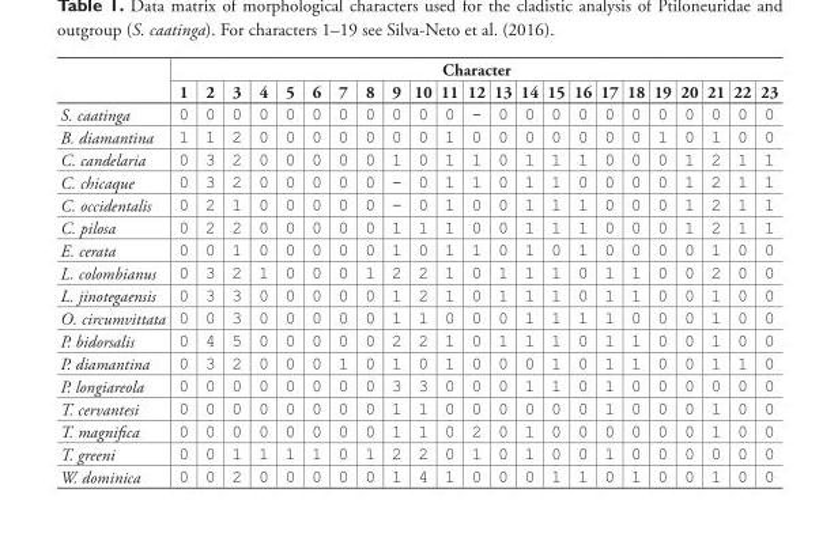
<table><thead><tr><td rowspan="2"></td><td colspan="23">Character</td></tr><tr><td>1</td><td>2</td><td>3</td><td>4</td><td>5</td><td>6</td><td>7</td><td>8</td><td>9</td><td>10</td><td>11</td><td>12</td><td>13</td><td>14</td><td>15</td><td>16</td><td>17</td><td>18</td><td>19</td><td>20</td><td>21</td><td>22</td><td>23</td></tr></thead><tbody><tr><td>S. caatinga</td><td>0</td><td>0</td><td>0</td><td>0</td><td>0</td><td>0</td><td>0</td><td>0</td><td>0</td><td>0</td><td>0</td><td>-</td><td>0</td><td>0</td><td>0</td><td>0</td><td>0</td><td>0</td><td>0</td><td>0</td><td>0</td><td>0</td><td>0</td></tr><tr><td>B. diamantina</td><td>1</td><td>1</td><td>2</td><td>0</td><td>0</td><td>0</td><td>0</td><td>0</td><td>0</td><td>0</td><td>1</td><td>0</td><td>0</td><td>0</td><td>0</td><td>0</td><td>0</td><td>0</td><td>1</td><td>0</td><td>1</td><td>0</td><td>0</td></tr><tr><td>C. candelaria</td><td>0</td><td>3</td><td>2</td><td>0</td><td>0</td><td>0</td><td>0</td><td>0</td><td>1</td><td>0</td><td>1</td><td>1</td><td>0</td><td>1</td><td>1</td><td>1</td><td>0</td><td>0</td><td>0</td><td>1</td><td>2</td><td>1</td><td>1</td></tr><tr><td>C. chicaque</td><td>0</td><td>3</td><td>2</td><td>0</td><td>0</td><td>0</td><td>0</td><td>0</td><td>-</td><td>0</td><td>1</td><td>1</td><td>0</td><td>1</td><td>1</td><td>0</td><td>0</td><td>0</td><td>0</td><td>1</td><td>2</td><td>1</td><td>1</td></tr><tr><td>C. occidentalis</td><td>0</td><td>2</td><td>1</td><td>0</td><td>0</td><td>0</td><td>0</td><td>0</td><td>-</td><td>0</td><td>1</td><td>0</td><td>0</td><td>1</td><td>1</td><td>1</td><td>0</td><td>0</td><td>0</td><td>1</td><td>2</td><td>1</td><td>1</td></tr><tr><td>C. pilosa</td><td>0</td><td>2</td><td>2</td><td>0</td><td>0</td><td>0</td><td>0</td><td>0</td><td>1</td><td>1</td><td>1</td><td>0</td><td>0</td><td>1</td><td>1</td><td>1</td><td>0</td><td>0</td><td>0</td><td>1</td><td>2</td><td>1</td><td>1</td></tr><tr><td>E. cerata</td><td>0</td><td>0</td><td>1</td><td>0</td><td>0</td><td>0</td><td>0</td><td>0</td><td>1</td><td>0</td><td>1</td><td>1</td><td>0</td><td>1</td><td>0</td><td>1</td><td>0</td><td>0</td><td>0</td><td>0</td><td>1</td><td>0</td><td>0</td></tr><tr><td>L. colombianus</td><td>0</td><td>3</td><td>2</td><td>1</td><td>0</td><td>0</td><td>0</td><td>1</td><td>2</td><td>2</td><td>1</td><td>0</td><td>1</td><td>1</td><td>1</td><td>0</td><td>1</td><td>1</td><td>0</td><td>0</td><td>2</td><td>0</td><td>0</td></tr><tr><td>L. jinotegaensis</td><td>0</td><td>3</td><td>3</td><td>0</td><td>0</td><td>0</td><td>0</td><td>0</td><td>1</td><td>2</td><td>1</td><td>0</td><td>1</td><td>1</td><td>1</td><td>0</td><td>1</td><td>1</td><td>0</td><td>0</td><td>1</td><td>0</td><td>0</td></tr><tr><td>O. circumvittata</td><td>0</td><td>0</td><td>3</td><td>0</td><td>0</td><td>0</td><td>0</td><td>0</td><td>1</td><td>1</td><td>0</td><td>0</td><td>0</td><td>1</td><td>1</td><td>1</td><td>1</td><td>0</td><td>0</td><td>0</td><td>1</td><td>0</td><td>0</td></tr><tr><td>P. bidorsalis</td><td>0</td><td>4</td><td>5</td><td>0</td><td>0</td><td>0</td><td>0</td><td>0</td><td>2</td><td>2</td><td>1</td><td>0</td><td>1</td><td>1</td><td>1</td><td>0</td><td>1</td><td>1</td><td>0</td><td>0</td><td>1</td><td>0</td><td>0</td></tr><tr><td>P. diamantina</td><td>0</td><td>3</td><td>2</td><td>0</td><td>0</td><td>0</td><td>1</td><td>0</td><td>1</td><td>0</td><td>1</td><td>0</td><td>0</td><td>0</td><td>1</td><td>0</td><td>1</td><td>1</td><td>0</td><td>0</td><td>1</td><td>1</td><td>0</td></tr><tr><td>P. longiareola</td><td>0</td><td>0</td><td>0</td><td>0</td><td>0</td><td>0</td><td>0</td><td>0</td><td>3</td><td>3</td><td>0</td><td>0</td><td>0</td><td>1</td><td>1</td><td>0</td><td>1</td><td>0</td><td>0</td><td>0</td><td>0</td><td>0</td><td>0</td></tr><tr><td>T. cervantesi</td><td>0</td><td>0</td><td>0</td><td>0</td><td>0</td><td>0</td><td>0</td><td>0</td><td>1</td><td>1</td><td>0</td><td>0</td><td>0</td><td>0</td><td>0</td><td>0</td><td>1</td><td>0</td><td>0</td><td>0</td><td>1</td><td>0</td><td>0</td></tr><tr><td>T. magnifica</td><td>0</td><td>0</td><td>0</td><td>0</td><td>0</td><td>0</td><td>0</td><td>0</td><td>1</td><td>1</td><td>0</td><td>2</td><td>0</td><td>1</td><td>0</td><td>0</td><td>0</td><td>0</td><td>0</td><td>0</td><td>1</td><td>0</td><td>0</td></tr><tr><td>T. greeni</td><td>0</td><td>0</td><td>1</td><td>1</td><td>1</td><td>1</td><td>0</td><td>1</td><td>2</td><td>2</td><td>0</td><td>1</td><td>0</td><td>1</td><td>0</td><td>0</td><td>1</td><td>0</td><td>0</td><td>0</td><td>0</td><td>0</td><td>0</td></tr><tr><td>W. dominica</td><td>0</td><td>0</td><td>2</td><td>0</td><td>0</td><td>0</td><td>0</td><td>0</td><td>1</td><td>4</td><td>1</td><td>0</td><td>0</td><td>0</td><td>1</td><td>1</td><td>0</td><td>1</td><td>0</td><td>0</td><td>1</td><td>0</td><td>0</td></tr></tbody></table>